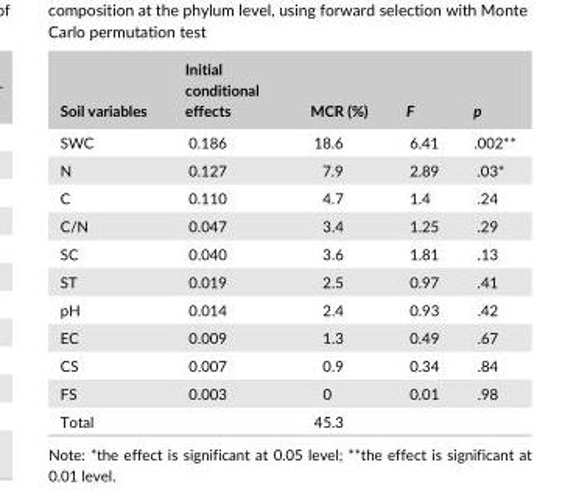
<table><thead><tr><td>Soil variables</td><td>Initial conditional effects</td><td>MCR (%)</td><td>F</td><td>p</td></tr></thead><tbody><tr><td>SWC</td><td>0.186</td><td>18.6</td><td>6.41</td><td>.002**</td></tr><tr><td>N</td><td>0.127</td><td>7.9</td><td>2.89</td><td>.03*</td></tr><tr><td>C</td><td>0.110</td><td>4.7</td><td>1.4</td><td>.24</td></tr><tr><td>C/N</td><td>0.047</td><td>3.4</td><td>1.25</td><td>.29</td></tr><tr><td>SC</td><td>0.040</td><td>3.6</td><td>1.81</td><td>.13</td></tr><tr><td>ST</td><td>0.019</td><td>2.5</td><td>0.97</td><td>.41</td></tr><tr><td>pH</td><td>0.014</td><td>2.4</td><td>0.93</td><td>.42</td></tr><tr><td>EC</td><td>0.009</td><td>1.3</td><td>0.49</td><td>.67</td></tr><tr><td>CS</td><td>0.007</td><td>0.9</td><td>0.34</td><td>.84</td></tr><tr><td>FS</td><td>0.003</td><td>0</td><td>0.01</td><td>.98</td></tr><tr><td>Total</td><td></td><td>45.3</td><td></td><td></td></tr></tbody></table>